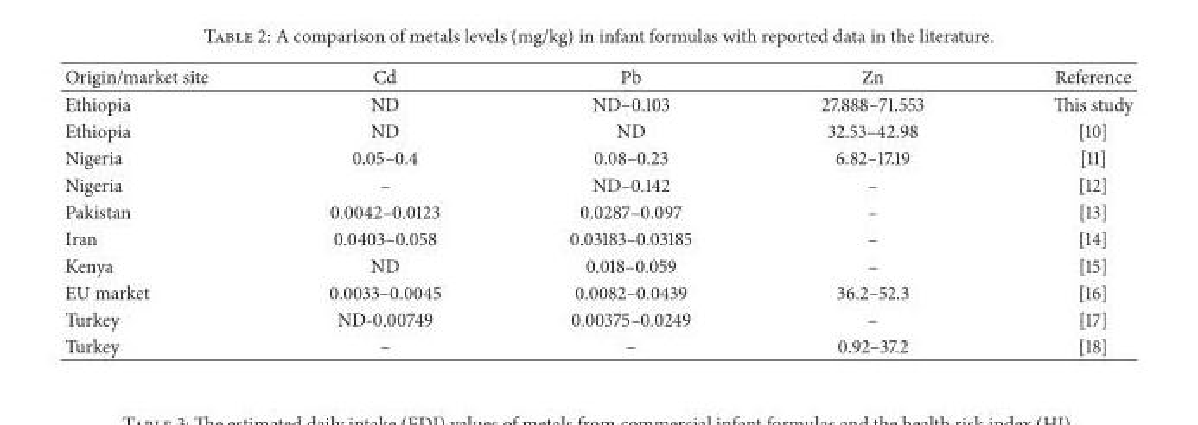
<table><thead><tr><td>Origin/market site</td><td>Cd</td><td>Pb</td><td>Zn</td><td>Reference</td></tr></thead><tbody><tr><td>Ethiopia</td><td>ND</td><td>ND–0.103</td><td>27.888–71.553</td><td>This study</td></tr><tr><td>Ethiopia</td><td>ND</td><td>ND</td><td>32.53–42.98</td><td>[10]</td></tr><tr><td>Nigeria</td><td>0.05–0.4</td><td>0.08–0.23</td><td>6.82–17.19</td><td>[11]</td></tr><tr><td>Nigeria</td><td>–</td><td>ND–0.142</td><td>–</td><td>[12]</td></tr><tr><td>Pakistan</td><td>0.0042–0.0123</td><td>0.0287–0.097</td><td>–</td><td>[13]</td></tr><tr><td>Iran</td><td>0.0403–0.058</td><td>0.03183–0.03185</td><td>–</td><td>[14]</td></tr><tr><td>Kenya</td><td>ND</td><td>0.018–0.059</td><td>–</td><td>[15]</td></tr><tr><td>EU market</td><td>0.0033–0.0045</td><td>0.0082–0.0439</td><td>36.2–52.3</td><td>[16]</td></tr><tr><td>Turkey</td><td>ND-0.00749</td><td>0.00375–0.0249</td><td>–</td><td>[17]</td></tr><tr><td>Turkey</td><td>–</td><td>–</td><td>0.92–37.2</td><td>[18]</td></tr></tbody></table>